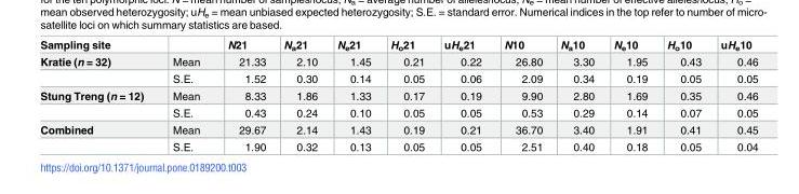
<table><thead><tr><td>Sampling site</td><td></td><td>N21</td><td>N<sub>a</sub>21</td><td>N<sub>e</sub>21</td><td>H<sub>o</sub>21</td><td>uH<sub>e</sub>21</td><td>N10</td><td>N<sub>a</sub>10</td><td>N<sub>e</sub>10</td><td>H<sub>o</sub>10</td><td>uH<sub>e</sub>10</td></tr></thead><tbody><tr><td rowspan="2">Kratie (n = 32)</td><td>Mean</td><td>21.33</td><td>2.10</td><td>1.45</td><td>0.21</td><td>0.22</td><td>26.80</td><td>3.30</td><td>1.95</td><td>0.43</td><td>0.46</td></tr><tr><td>S.E.</td><td>1.52</td><td>0.30</td><td>0.14</td><td>0.05</td><td>0.06</td><td>2.09</td><td>0.34</td><td>0.19</td><td>0.05</td><td>0.05</td></tr><tr><td rowspan="2">Stung Treng (n = 12)</td><td>Mean</td><td>8.33</td><td>1.86</td><td>1.33</td><td>0.17</td><td>0.19</td><td>9.90</td><td>2.80</td><td>1.69</td><td>0.35</td><td>0.46</td></tr><tr><td>S.E.</td><td>0.43</td><td>0.24</td><td>0.10</td><td>0.05</td><td>0.05</td><td>0.53</td><td>0.29</td><td>0.14</td><td>0.07</td><td>0.05</td></tr><tr><td rowspan="2">Combined</td><td>Mean</td><td>29.67</td><td>2.14</td><td>1.43</td><td>0.19</td><td>0.21</td><td>36.70</td><td>3.40</td><td>1.91</td><td>0.41</td><td>0.45</td></tr><tr><td>S.E.</td><td>1.90</td><td>0.32</td><td>0.13</td><td>0.05</td><td>0.05</td><td>2.51</td><td>0.40</td><td>0.18</td><td>0.05</td><td>0.04</td></tr></tbody></table>